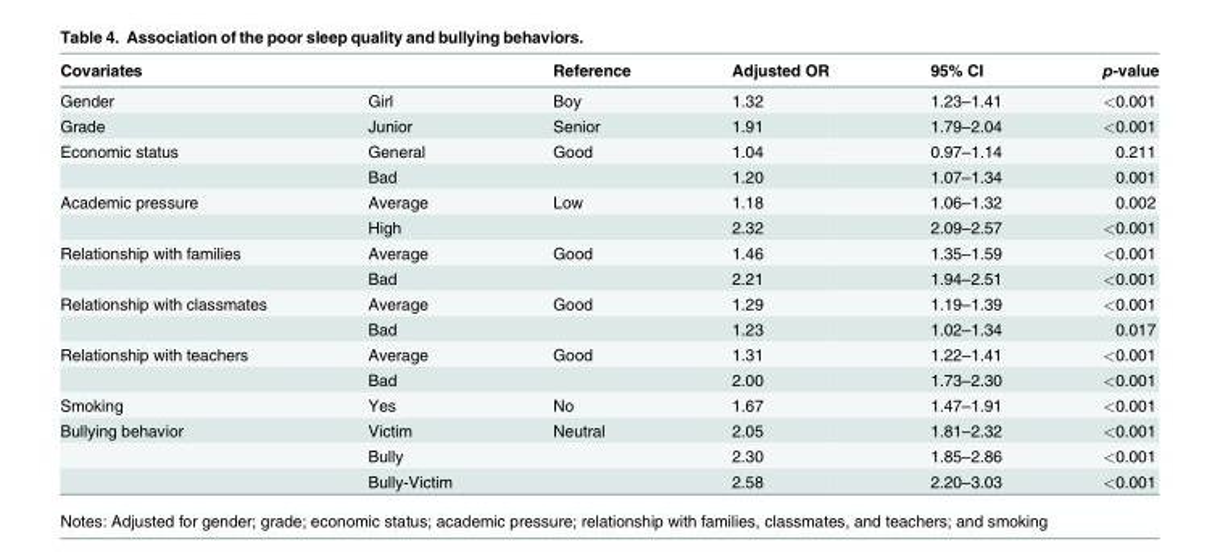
<table><thead><tr><td>Covariates</td><td></td><td>Reference</td><td>Adjusted OR</td><td>95% CI</td><td>p-value</td></tr></thead><tbody><tr><td>Gender</td><td>Girl</td><td>Boy</td><td>1.32</td><td>1.23–1.41</td><td>&lt;0.001</td></tr><tr><td>Grade</td><td>Junior</td><td>Senior</td><td>1.91</td><td>1.79–2.04</td><td>&lt;0.001</td></tr><tr><td rowspan="2">Economic status</td><td>General</td><td>Good</td><td>1.04</td><td>0.97–1.14</td><td>0.211</td></tr><tr><td>Bad</td><td></td><td>1.20</td><td>1.07–1.34</td><td>0.001</td></tr><tr><td rowspan="2">Academic pressure</td><td>Average</td><td>Low</td><td>1.18</td><td>1.06–1.32</td><td>0.002</td></tr><tr><td>High</td><td></td><td>2.32</td><td>2.09–2.57</td><td>&lt;0.001</td></tr><tr><td rowspan="2">Relationship with families</td><td>Average</td><td>Good</td><td>1.46</td><td>1.35–1.59</td><td>&lt;0.001</td></tr><tr><td>Bad</td><td></td><td>2.21</td><td>1.94–2.51</td><td>&lt;0.001</td></tr><tr><td rowspan="2">Relationship with classmates</td><td>Average</td><td>Good</td><td>1.29</td><td>1.19–1.39</td><td>&lt;0.001</td></tr><tr><td>Bad</td><td></td><td>1.23</td><td>1.02–1.34</td><td>0.017</td></tr><tr><td rowspan="2">Relationship with teachers</td><td>Average</td><td>Good</td><td>1.31</td><td>1.22–1.41</td><td>&lt;0.001</td></tr><tr><td>Bad</td><td></td><td>2.00</td><td>1.73–2.30</td><td>&lt;0.001</td></tr><tr><td>Smoking</td><td>Yes</td><td>No</td><td>1.67</td><td>1.47–1.91</td><td>&lt;0.001</td></tr><tr><td rowspan="3">Bullying behavior</td><td>Victim</td><td>Neutral</td><td>2.05</td><td>1.81–2.32</td><td>&lt;0.001</td></tr><tr><td>Bully</td><td></td><td>2.30</td><td>1.85–2.86</td><td>&lt;0.001</td></tr><tr><td>Bully-Victim</td><td></td><td>2.58</td><td>2.20–3.03</td><td>&lt;0.001</td></tr></tbody></table>